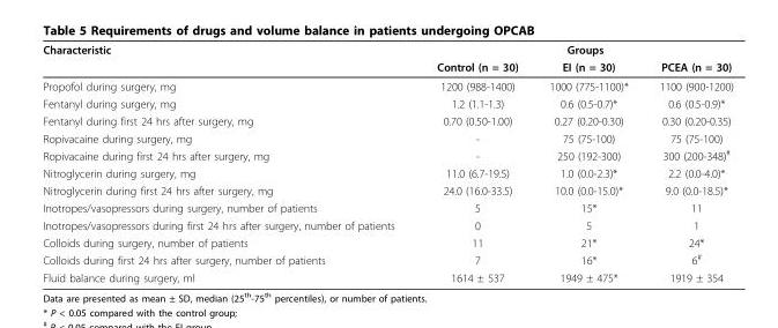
<table><thead><tr><td rowspan="2">Characteristic</td><td colspan="3">Groups</td></tr><tr><td>Control (n = 30)</td><td>EI (n = 30)</td><td>PCEA (n = 30)</td></tr></thead><tbody><tr><td>Propofol during surgery, mg</td><td>1200 (988-1400)</td><td>1000 (775-1100)*</td><td>1100 (900-1200)</td></tr><tr><td>Fentanyl during surgery, mg</td><td>1.2 (1.1-1.3)</td><td>0.6 (0.5-0.7)*</td><td>0.6 (0.5-0.9)*</td></tr><tr><td>Fentanyl during first 24 hrs after surgery, mg</td><td>0.70 (0.50-1.00)</td><td>0.27 (0.20-0.30)</td><td>0.30 (0.20-0.35)</td></tr><tr><td>Ropivacaine during surgery, mg</td><td>-</td><td>75 (75-100)</td><td>75 (75-100)</td></tr><tr><td>Ropivacaine during first 24 hrs after surgery, mg</td><td>-</td><td>250 (192-300)</td><td>300 (200-348)<sup>#</sup></td></tr><tr><td>Nitroglycerin during surgery, mg</td><td>11.0 (6.7-19.5)</td><td>1.0 (0.0-2.3)*</td><td>2.2 (0.0-4.0)*</td></tr><tr><td>Nitroglycerin during first 24 hrs after surgery, mg</td><td>24.0 (16.0-33.5)</td><td>10.0 (0.0-15.0)*</td><td>9.0 (0.0-18.5)*</td></tr><tr><td>Inotropes/vasopressors during surgery, number of patients</td><td>5</td><td>15*</td><td>11</td></tr><tr><td>Inotropes/vasopressors during first 24 hrs after surgery, number of patients</td><td>0</td><td>5</td><td>1</td></tr><tr><td>Colloids during surgery, number of patients</td><td>11</td><td>21*</td><td>24*</td></tr><tr><td>Colloids during first 24 hrs after surgery, number of patients</td><td>7</td><td>16*</td><td>6<sup>#</sup></td></tr><tr><td>Fluid balance during surgery, ml</td><td>1614 ± 537</td><td>1949 ± 475*</td><td>1919 ± 354</td></tr></tbody></table>